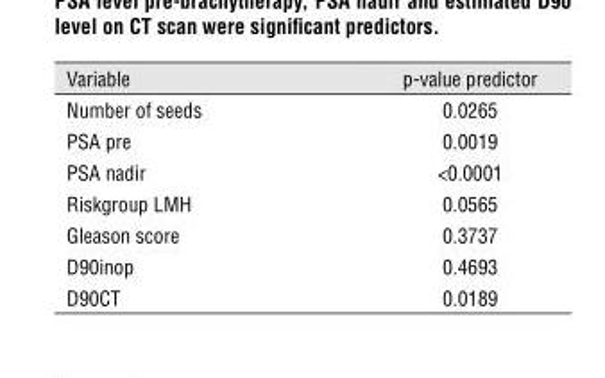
<table><thead><tr><td>Variable</td><td>p-value predictor</td></tr></thead><tbody><tr><td>Number of seeds</td><td>0.0265</td></tr><tr><td>PSA pre</td><td>0.0019</td></tr><tr><td>PSA nadir</td><td>&lt;0.0001</td></tr><tr><td>Riskgroup LMH</td><td>0.0565</td></tr><tr><td>Gleason score</td><td>0.3737</td></tr><tr><td>D90inop</td><td>0.4693</td></tr><tr><td>D90CT</td><td>0.0189</td></tr></tbody></table>